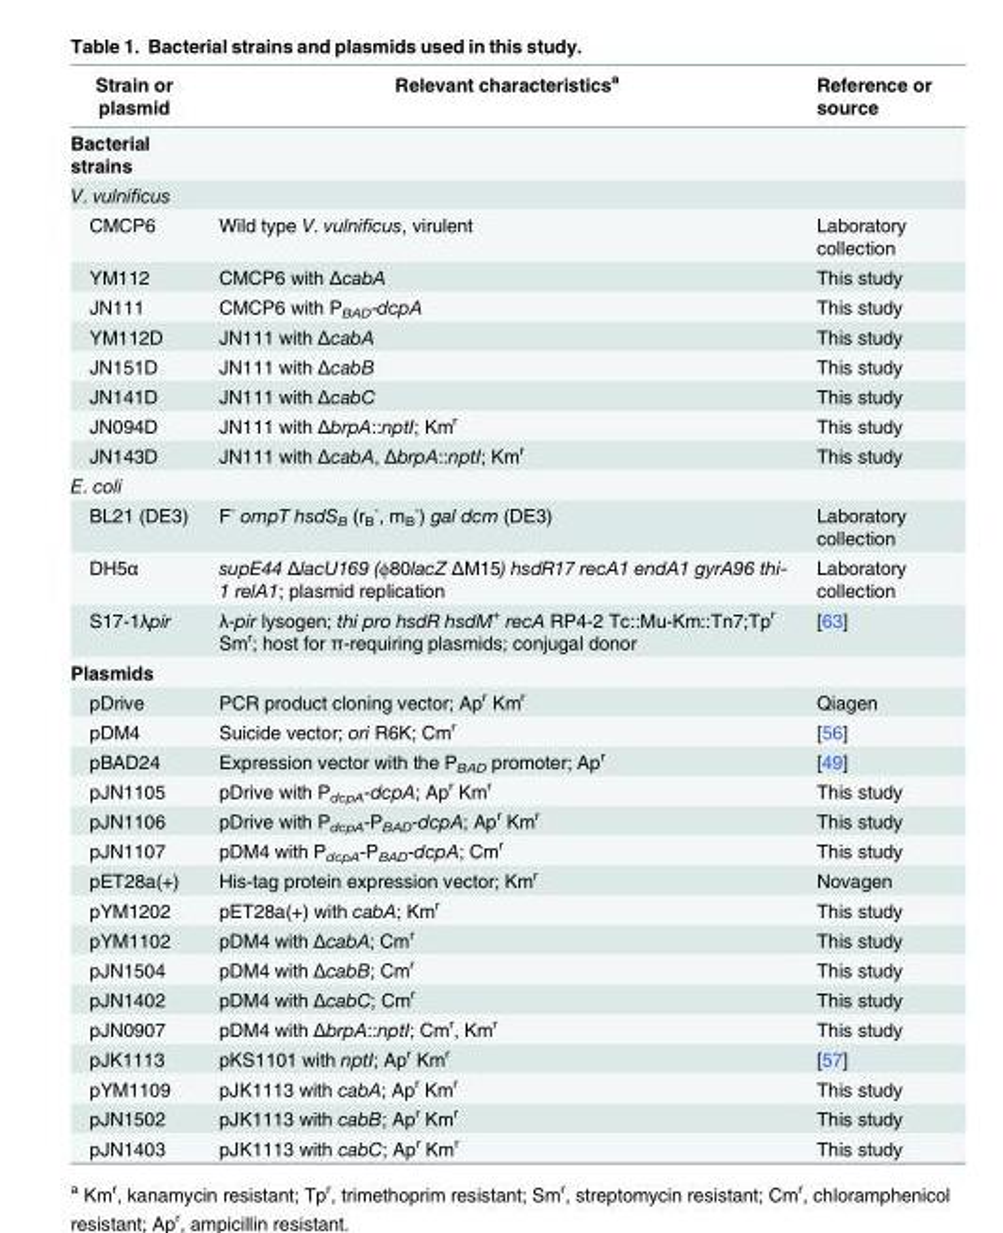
<table><thead><tr><td>Strain or plasmid</td><td>Relevant characteristics<sup>a</sup></td><td>Reference or source</td></tr></thead><tbody><tr><td colspan="3">Bacterial strains</td></tr><tr><td colspan="3">V. vulnificus</td></tr><tr><td>CMCP6</td><td>Wild type V. vulnificus, virulent</td><td>Laboratory collection</td></tr><tr><td>YM112</td><td>CMCP6 with ΔcabA</td><td>This study</td></tr><tr><td>JN111</td><td>CMCP6 with P<sub>BAD</sub>-dcpA</td><td>This study</td></tr><tr><td>YM112D</td><td>JN111 with ΔcabA</td><td>This study</td></tr><tr><td>JN151D</td><td>JN111 with ΔcabB</td><td>This study</td></tr><tr><td>JN141D</td><td>JN111 with ΔcabC</td><td>This study</td></tr><tr><td>JN094D</td><td>JN111 with ΔbrpA::nptI; Km<sup>r</sup></td><td>This study</td></tr><tr><td>JN143D</td><td>JN111 with ΔcabA, ΔbrpA::nptI; Km<sup>r</sup></td><td>This study</td></tr><tr><td colspan="3">E. coli</td></tr><tr><td>BL21 (DE3)</td><td>F<sup>-</sup> ompT hsdS<sub>B</sub> (r<sub>B</sub> <sup>-</sup>, m<sub>B</sub> <sup>-</sup>) gal dcm (DE3)</td><td>Laboratory collection</td></tr><tr><td>DH5α</td><td>supE44 ΔlacU169 (ϕ80lacZ ΔM15) hsdR17 recA1 endA1 gyrA96 thi- 1 relA1; plasmid replication</td><td>Laboratory collection</td></tr><tr><td>S17-1λpir</td><td>λ-pir lysogen; thi pro hsdR hsdM<sup>+</sup> recA RP4-2 Tc::Mu-Km::Tn7;Tp<sup>r</sup> Sm<sup>r</sup>; host for π-requiring plasmids; conjugal donor</td><td>[63]</td></tr><tr><td colspan="3">Plasmids</td></tr><tr><td>pDrive</td><td>PCR product cloning vector; Ap<sup>r</sup> Km<sup>r</sup></td><td>Qiagen</td></tr><tr><td>pDM4</td><td>Suicide vector; ori R6K; Cm<sup>r</sup></td><td>[56]</td></tr><tr><td>pBAD24</td><td>Expression vector with the P<sub>BAD</sub> promoter; Ap<sup>r</sup></td><td>[49]</td></tr><tr><td>pJN1105</td><td>pDrive with P<sub>dcpA</sub>-dcpA; Ap<sup>r</sup> Km<sup>r</sup></td><td>This study</td></tr><tr><td>pJN1106</td><td>pDrive with P<sub>dcpA</sub>-P<sub>BAD</sub>-dcpA; Ap<sup>r</sup> Km<sup>r</sup></td><td>This study</td></tr><tr><td>pJN1107</td><td>pDM4 with P<sub>dcpA</sub>-P<sub>BAD</sub>-dcpA; Cm<sup>r</sup></td><td>This study</td></tr><tr><td>pET28a(+)</td><td>His-tag protein expression vector; Km<sup>r</sup></td><td>Novagen</td></tr><tr><td>pYM1202</td><td>pET28a(+) with cabA; Km<sup>r</sup></td><td>This study</td></tr><tr><td>pYM1102</td><td>pDM4 with ΔcabA; Cm<sup>r</sup></td><td>This study</td></tr><tr><td>pJN1504</td><td>pDM4 with ΔcabB; Cm<sup>r</sup></td><td>This study</td></tr><tr><td>pJN1402</td><td>pDM4 with ΔcabC; Cm<sup>r</sup></td><td>This study</td></tr><tr><td>pJN0907</td><td>pDM4 with ΔbrpA::nptI; Cm<sup>r</sup>, Km<sup>r</sup></td><td>This study</td></tr><tr><td>pJK1113</td><td>pKS1101 with nptI; Ap<sup>r</sup> Km<sup>r</sup></td><td>[57]</td></tr><tr><td>pYM1109</td><td>pJK1113 with cabA; Ap<sup>r</sup> Km<sup>r</sup></td><td>This study</td></tr><tr><td>pJN1502</td><td>pJK1113 with cabB; Ap<sup>r</sup> Km<sup>r</sup></td><td>This study</td></tr><tr><td>pJN1403</td><td>pJK1113 with cabC; Ap<sup>r</sup> Km<sup>r</sup></td><td>This study</td></tr></tbody></table>